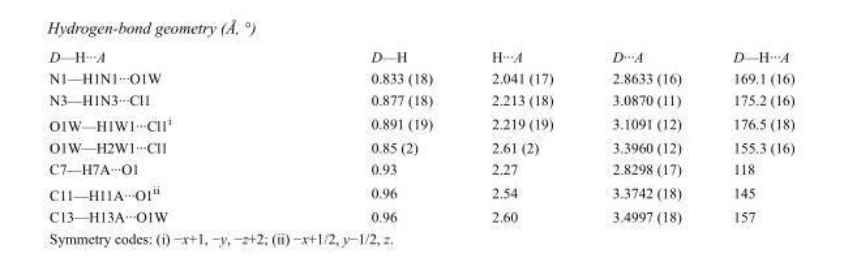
<table><tbody><tr><td>D—H···A</td><td>D—H</td><td>H···A</td><td>D···A</td><td>D—H···A</td></tr><tr><td>N1—H1N1···O1W</td><td>0.833 (18)</td><td>2.041 (17)</td><td>2.8633 (16)</td><td>169.1 (16)</td></tr><tr><td>N3—H1N3···Cl1</td><td>0.877 (18)</td><td>2.213 (18)</td><td>3.0870 (11)</td><td>175.2 (16)</td></tr><tr><td>O1W—H1W1···Cl1<sup>i</sup></td><td>0.891 (19)</td><td>2.219 (19)</td><td>3.1091 (12)</td><td>176.5 (18)</td></tr><tr><td>O1W—H2W1···Cl1</td><td>0.85 (2)</td><td>2.61 (2)</td><td>3.3960 (12)</td><td>155.3 (16)</td></tr><tr><td>C7—H7A···O1</td><td>0.93</td><td>2.27</td><td>2.8298 (17)</td><td>118</td></tr><tr><td>C11—H11A···O1<sup>ii</sup></td><td>0.96</td><td>2.54</td><td>3.3742 (18)</td><td>145</td></tr><tr><td>C13—H13A···O1W</td><td>0.96</td><td>2.60</td><td>3.4997 (18)</td><td>157</td></tr></tbody></table>